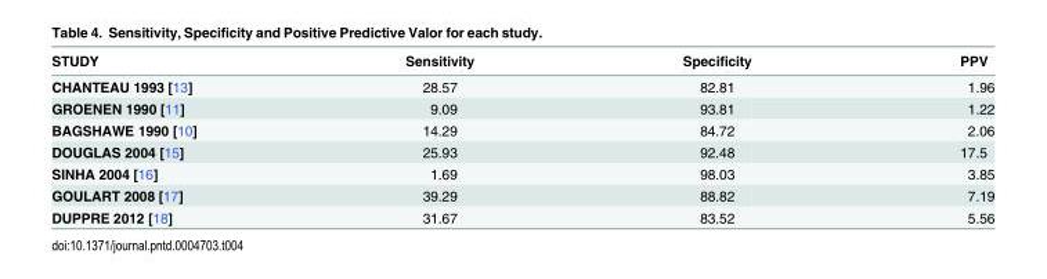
<table><thead><tr><td>STUDY</td><td>Sensitivity</td><td>Specificity</td><td>PPV</td></tr></thead><tbody><tr><td>CHANTEAU 1993 [13]</td><td>28.57</td><td>82.81</td><td>1.96</td></tr><tr><td>GROENEN 1990 [11]</td><td>9.09</td><td>93.81</td><td>1.22</td></tr><tr><td>BAGSHAWE 1990 [10]</td><td>14.29</td><td>84.72</td><td>2.06</td></tr><tr><td>DOUGLAS 2004 [15]</td><td>25.93</td><td>92.48</td><td>17.5</td></tr><tr><td>SINHA 2004 [16]</td><td>1.69</td><td>98.03</td><td>3.85</td></tr><tr><td>GOULART 2008 [17]</td><td>39.29</td><td>88.82</td><td>7.19</td></tr><tr><td>DUPPRE 2012 [18]</td><td>31.67</td><td>83.52</td><td>5.56</td></tr></tbody></table>